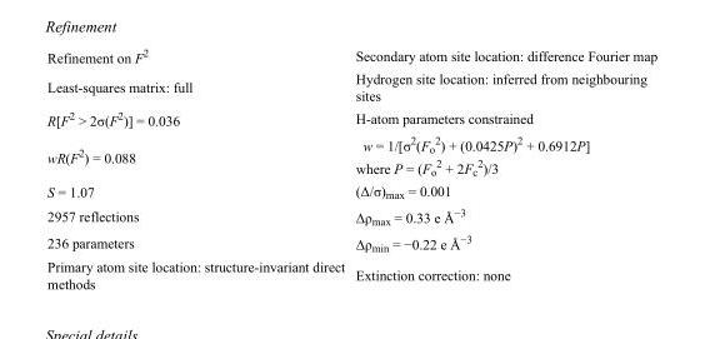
<table><tbody><tr><td>Refinement on F<sup>2</sup></td><td>Secondary atom site location: difference Fourier map</td></tr><tr><td>Least-squares matrix: full</td><td>Hydrogen site location: inferred from neighbouring sites</td></tr><tr><td>R[F<sup>2</sup> &gt; 2σ(F<sup>2</sup>)] = 0.036</td><td>H-atom parameters constrained</td></tr><tr><td>wR(F<sup>2</sup>) = 0.088</td><td>w = 1/[σ<sup>2</sup>(F<sub>o</sub> <sup>2</sup>) + (0.0425P)<sup>2</sup> + 0.6912P] where P = (F<sub>o</sub> <sup>2</sup> + 2F<sub>c</sub> <sup>2</sup>)/3</td></tr><tr><td>S = 1.07</td><td>(Δ/σ)<sub>max</sub> = 0.001</td></tr><tr><td>2957 reflections</td><td>Δρ<sub>max</sub> = 0.33 e Å<sup>−3</sup></td></tr><tr><td>236 parameters</td><td>Δρ<sub>min</sub> = −0.22 e Å<sup>−3</sup></td></tr><tr><td>Primary atom site location: structure-invariant direct methods</td><td>Extinction correction: none</td></tr></tbody></table>